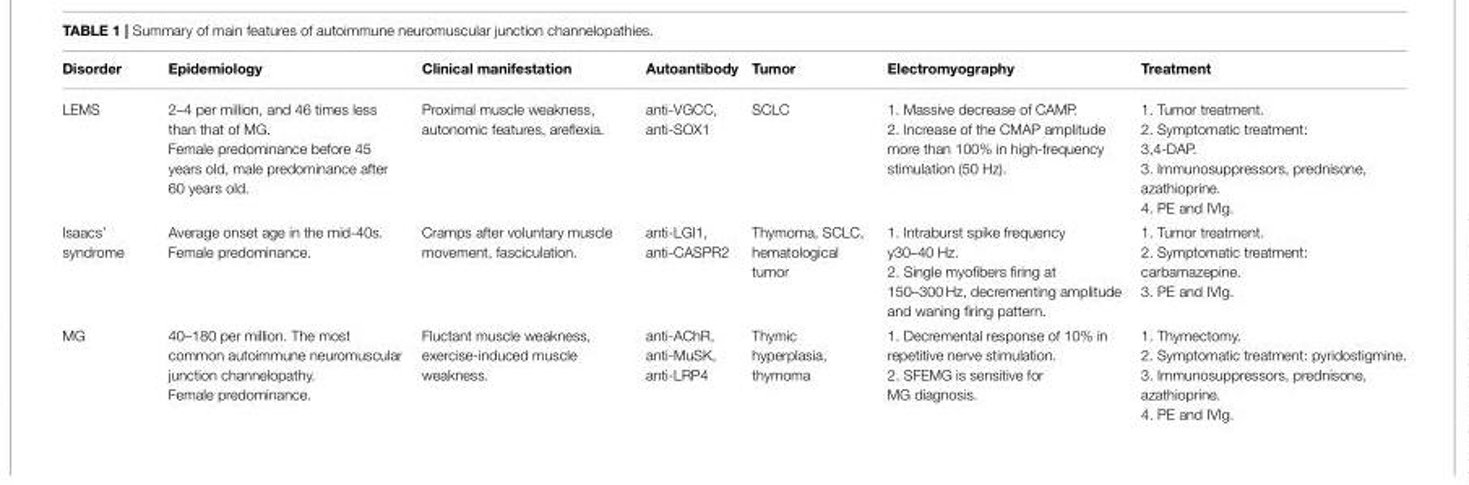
<table><thead><tr><td>Disorder</td><td>Epidemiology</td><td>Clinical manifestation</td><td>Autoantibody</td><td>Tumor</td><td>Electromyography</td><td>Treatment</td></tr></thead><tbody><tr><td>LEMS</td><td>2–4 per million, and 46 times less than that of MG. Female predominance before 45 years old, male predominance after 60 years old.</td><td>Proximal muscle weakness, autonomic features, areflexia.</td><td>anti-VGCC, anti-SOX1</td><td>SCLC</td><td>1. Massive decrease of CAMP. 2. Increase of the CMAP amplitude more than 100% in high-frequency stimulation (50 Hz).</td><td>1. Tumor treatment. 2. Symptomatic treatment: 3,4-DAP. 3. Immunosuppressors, prednisone, azathioprine. 4. PE and IVIg.</td></tr><tr><td>Isaacs’ syndrome</td><td>Average onset age in the mid-40s. Female predominance.</td><td>Cramps after voluntary muscle movement, fasciculation.</td><td>anti-LGI1, anti-CASPR2</td><td>Thymoma, SCLC, hematological tumor</td><td>1. Intraburst spike frequency y30–40 Hz. 2. Single myofibers firing at 150–300 Hz, decrementing amplitude and waning firing pattern.</td><td>1. Tumor treatment. 2. Symptomatic treatment: carbamazepine. 3. PE and IVIg.</td></tr><tr><td>MG</td><td>40–180 per million. The most common autoimmune neuromuscular junction channelopathy. Female predominance.</td><td>Fluctant muscle weakness, exercise-induced muscle weakness.</td><td>anti-AChR, anti-MuSK, anti-LRP4</td><td>Thymic hyperplasia, thymoma</td><td>1. Decremental response of 10% in repetitive nerve stimulation. 2. SFEMG is sensitive for MG diagnosis.</td><td>1. Thymectomy. 2. Symptomatic treatment: pyridostigmine. 3. Immunosuppressors, prednisone, azathioprine. 4. PE and IVIg.</td></tr></tbody></table>